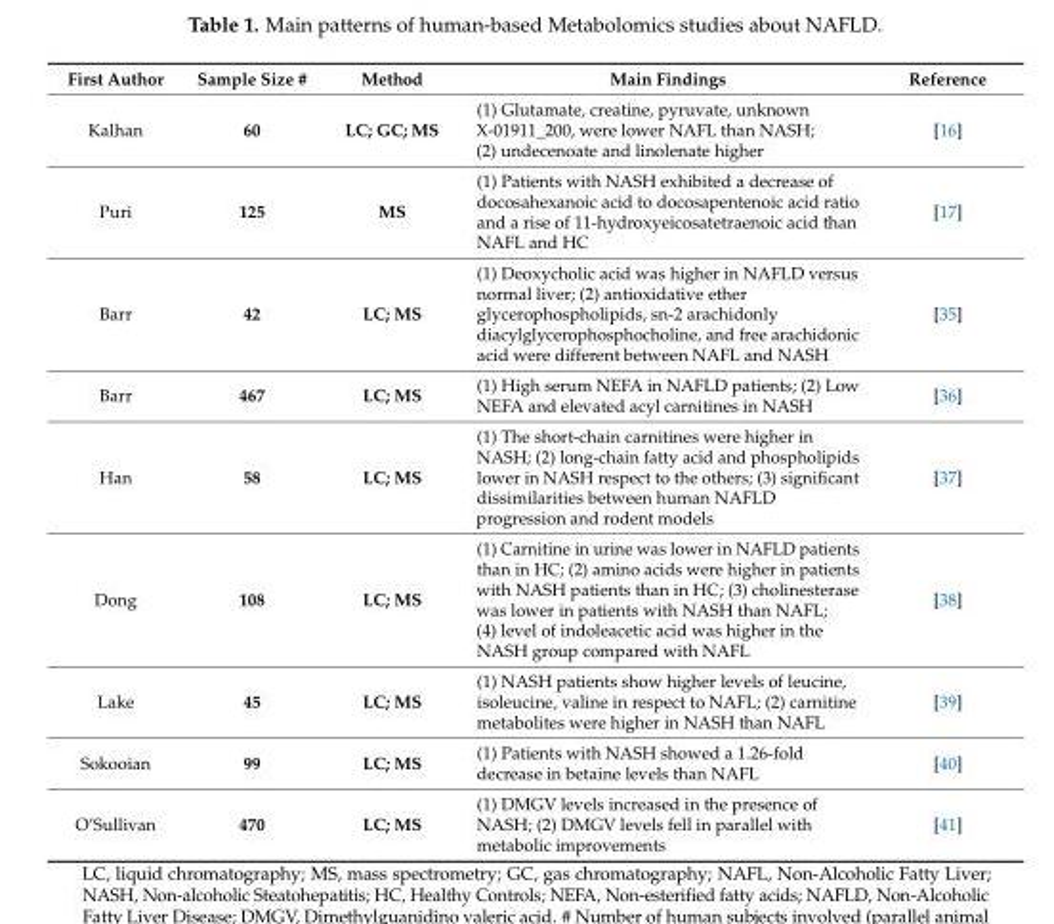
<table><thead><tr><td>First Author</td><td>Sample Size #</td><td>Method</td><td>Main Findings</td><td>Reference</td></tr></thead><tbody><tr><td>Kalhan</td><td>60</td><td>LC; GC; MS</td><td>(1) Glutamate, creatine, pyruvate, unknown X-01911_200, were lower NAFL than NASH; (2) undecenoate and linolenate higher</td><td>[16]</td></tr><tr><td>Puri</td><td>125</td><td>MS</td><td>(1) Patients with NASH exhibited a decrease of docosahexanoic acid to docosapentenoic acid ratio and a rise of 11-hydroxyeicosatetraenoic acid than NAFL and HC</td><td>[17]</td></tr><tr><td>Barr</td><td>42</td><td>LC; MS</td><td>(1) Deoxycholic acid was higher in NAFLD versus normal liver; (2) antioxidative ether glycerophospholipids, sn-2 arachidonly diacylglycerophosphocholine, and free arachidonic acid were different between NAFL and NASH</td><td>[35]</td></tr><tr><td>Barr</td><td>467</td><td>LC; MS</td><td>(1) High serum NEFA in NAFLD patients; (2) Low NEFA and elevated acyl carnitines in NASH</td><td>[36]</td></tr><tr><td>Han</td><td>58</td><td>LC; MS</td><td>(1) The short-chain carnitines were higher in NASH; (2) long-chain fatty acid and phospholipids lower in NASH respect to the others; (3) significant dissimilarities between human NAFLD progression and rodent models</td><td>[37]</td></tr><tr><td>Dong</td><td>108</td><td>LC; MS</td><td>(1) Carnitine in urine was lower in NAFLD patients than in HC; (2) amino acids were higher in patients with NASH patients than in HC; (3) cholinesterase was lower in patients with NASH than NAFL; (4) level of indoleacetic acid was higher in the NASH group compared with NAFL</td><td>[38]</td></tr><tr><td>Lake</td><td>45</td><td>LC; MS</td><td>(1) NASH patients show higher levels of leucine, isoleucine, valine in respect to NAFL; (2) carnitine metabolites were higher in NASH than NAFL</td><td>[39]</td></tr><tr><td>Sokooian</td><td>99</td><td>LC; MS</td><td>(1) Patients with NASH showed a 1.26-fold decrease in betaine levels than NAFL</td><td>[40]</td></tr><tr><td>O’Sullivan</td><td>470</td><td>LC; MS</td><td>(1) DMGV levels increased in the presence of NASH; (2) DMGV levels fell in parallel with metabolic improvements</td><td>[41]</td></tr></tbody></table>